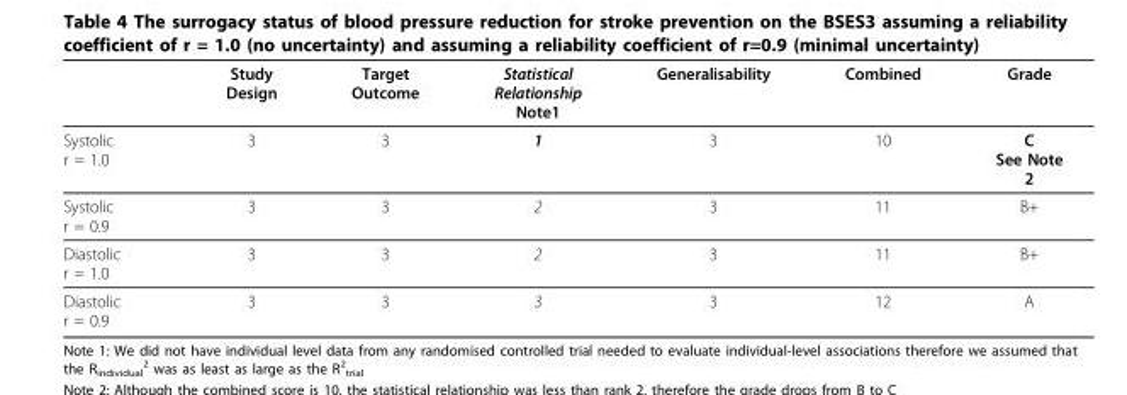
<table><thead><tr><td></td><td>Study Design</td><td>Target Outcome</td><td>Statistical Relationship Note1</td><td>Generalisability</td><td>Combined</td><td>Grade</td></tr></thead><tbody><tr><td>Systolic r = 1.0</td><td>3</td><td>3</td><td>1</td><td>3</td><td>10</td><td>C See Note 2</td></tr><tr><td>Systolic r = 0.9</td><td>3</td><td>3</td><td>2</td><td>3</td><td>11</td><td>B+</td></tr><tr><td>Diastolic r = 1.0</td><td>3</td><td>3</td><td>2</td><td>3</td><td>11</td><td>B+</td></tr><tr><td>Diastolic r = 0.9</td><td>3</td><td>3</td><td>3</td><td>3</td><td>12</td><td>A</td></tr></tbody></table>